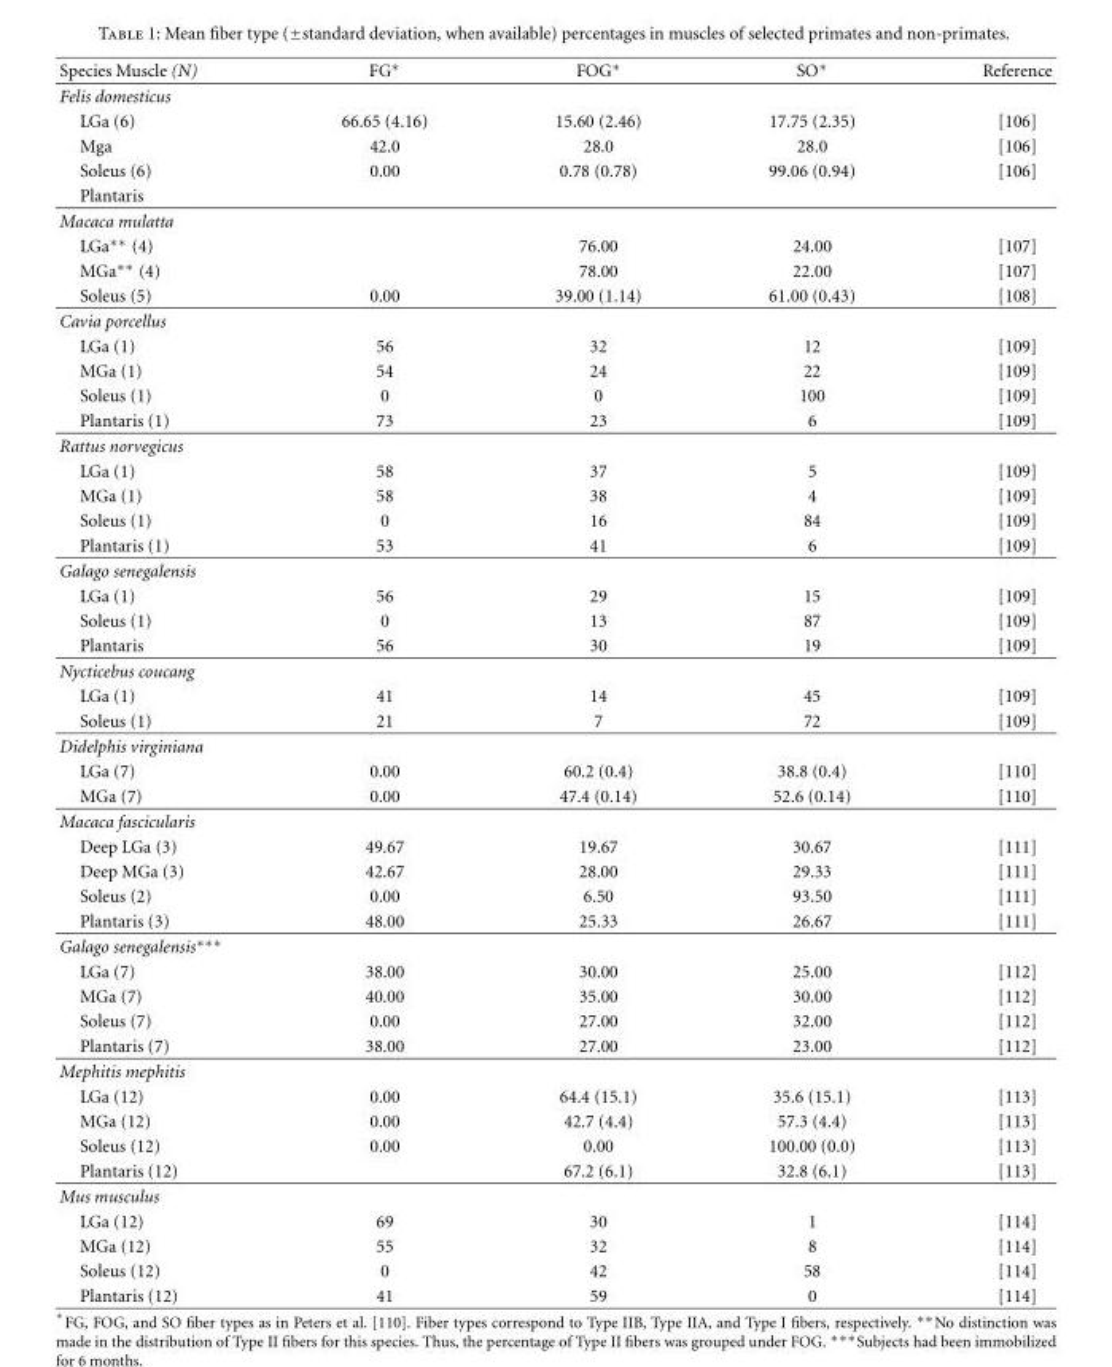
<table><thead><tr><td>Species Muscle (N)</td><td>FG∗</td><td>FOG∗</td><td>SO∗</td><td>Reference</td></tr></thead><tbody><tr><td colspan="5">Felis domesticus</td></tr><tr><td>LGa (6)</td><td>66.65 (4.16)</td><td>15.60 (2.46)</td><td>17.75 (2.35)</td><td>[106]</td></tr><tr><td>Mga</td><td>42.0</td><td>28.0</td><td>28.0</td><td>[106]</td></tr><tr><td>Soleus (6)</td><td>0.00</td><td>0.78 (0.78)</td><td>99.06 (0.94)</td><td>[106]</td></tr><tr><td colspan="5">Plantaris</td></tr><tr><td colspan="5">Macaca mulatta</td></tr><tr><td>LGa∗∗ (4)</td><td></td><td>76.00</td><td>24.00</td><td>[107]</td></tr><tr><td>MGa∗∗ (4)</td><td></td><td>78.00</td><td>22.00</td><td>[107]</td></tr><tr><td>Soleus (5)</td><td>0.00</td><td>39.00 (1.14)</td><td>61.00 (0.43)</td><td>[108]</td></tr><tr><td colspan="5">Cavia porcellus</td></tr><tr><td>LGa (1)</td><td>56</td><td>32</td><td>12</td><td>[109]</td></tr><tr><td>MGa (1)</td><td>54</td><td>24</td><td>22</td><td>[109]</td></tr><tr><td>Soleus (1)</td><td>0</td><td>0</td><td>100</td><td>[109]</td></tr><tr><td>Plantaris (1)</td><td>73</td><td>23</td><td>6</td><td>[109]</td></tr><tr><td colspan="5">Rattus norvegicus</td></tr><tr><td>LGa (1)</td><td>58</td><td>37</td><td>5</td><td>[109]</td></tr><tr><td>MGa (1)</td><td>58</td><td>38</td><td>4</td><td>[109]</td></tr><tr><td>Soleus (1)</td><td>0</td><td>16</td><td>84</td><td>[109]</td></tr><tr><td>Plantaris (1)</td><td>53</td><td>41</td><td>6</td><td>[109]</td></tr><tr><td colspan="5">Galago senegalensis</td></tr><tr><td>LGa (1)</td><td>56</td><td>29</td><td>15</td><td>[109]</td></tr><tr><td>Soleus (1)</td><td>0</td><td>13</td><td>87</td><td>[109]</td></tr><tr><td>Plantaris</td><td>56</td><td>30</td><td>19</td><td>[109]</td></tr><tr><td colspan="5">Nycticebus coucang</td></tr><tr><td>LGa (1)</td><td>41</td><td>14</td><td>45</td><td>[109]</td></tr><tr><td>Soleus (1)</td><td>21</td><td>7</td><td>72</td><td>[109]</td></tr><tr><td colspan="5">Didelphis virginiana</td></tr><tr><td>LGa (7)</td><td>0.00</td><td>60.2 (0.4)</td><td>38.8 (0.4)</td><td>[110]</td></tr><tr><td>MGa (7)</td><td>0.00</td><td>47.4 (0.14)</td><td>52.6 (0.14)</td><td>[110]</td></tr><tr><td colspan="5">Macaca fascicularis</td></tr><tr><td>Deep LGa (3)</td><td>49.67</td><td>19.67</td><td>30.67</td><td>[111]</td></tr><tr><td>Deep MGa (3)</td><td>42.67</td><td>28.00</td><td>29.33</td><td>[111]</td></tr><tr><td>Soleus (2)</td><td>0.00</td><td>6.50</td><td>93.50</td><td>[111]</td></tr><tr><td>Plantaris (3)</td><td>48.00</td><td>25.33</td><td>26.67</td><td>[111]</td></tr><tr><td colspan="5">Galago senegalensis∗∗∗</td></tr><tr><td>LGa (7)</td><td>38.00</td><td>30.00</td><td>25.00</td><td>[112]</td></tr><tr><td>MGa (7)</td><td>40.00</td><td>35.00</td><td>30.00</td><td>[112]</td></tr><tr><td>Soleus (7)</td><td>0.00</td><td>27.00</td><td>32.00</td><td>[112]</td></tr><tr><td>Plantaris (7)</td><td>38.00</td><td>27.00</td><td>23.00</td><td>[112]</td></tr><tr><td colspan="5">Mephitis mephitis</td></tr><tr><td>LGa (12)</td><td>0.00</td><td>64.4 (15.1)</td><td>35.6 (15.1)</td><td>[113]</td></tr><tr><td>MGa (12)</td><td>0.00</td><td>42.7 (4.4)</td><td>57.3 (4.4)</td><td>[113]</td></tr><tr><td>Soleus (12)</td><td>0.00</td><td>0.00</td><td>100.00 (0.0)</td><td>[113]</td></tr><tr><td>Plantaris (12)</td><td></td><td>67.2 (6.1)</td><td>32.8 (6.1)</td><td>[113]</td></tr><tr><td colspan="5">Mus musculus</td></tr><tr><td>LGa (12)</td><td>69</td><td>30</td><td>1</td><td>[114]</td></tr><tr><td>MGa (12)</td><td>55</td><td>32</td><td>8</td><td>[114]</td></tr><tr><td>Soleus (12)</td><td>0</td><td>42</td><td>58</td><td>[114]</td></tr><tr><td>Plantaris (12)</td><td>41</td><td>59</td><td>0</td><td>[114]</td></tr></tbody></table>